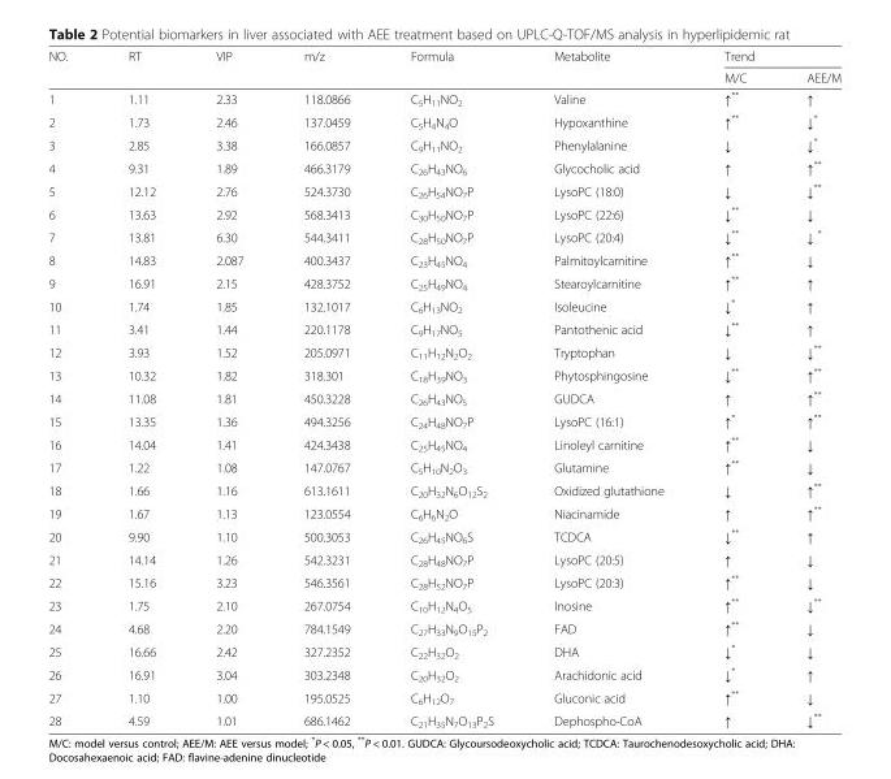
<table><thead><tr><td rowspan="2">NO.</td><td rowspan="2">RT</td><td rowspan="2">VIP</td><td rowspan="2">m/z</td><td rowspan="2">Formula</td><td rowspan="2">Metabolite</td><td colspan="2">Trend</td></tr><tr><td>M/C</td><td>AEE/M</td></tr></thead><tbody><tr><td>1</td><td>1.11</td><td>2.33</td><td>118.0866</td><td>C<sub>5</sub>H<sub>11</sub>NO<sub>2</sub></td><td>Valine</td><td>↑**</td><td>↑</td></tr><tr><td>2</td><td>1.73</td><td>2.46</td><td>137.0459</td><td>C<sub>5</sub>H<sub>4</sub>N<sub>4</sub>O</td><td>Hypoxanthine</td><td>↑**</td><td>↓*</td></tr><tr><td>3</td><td>2.85</td><td>3.38</td><td>166.0857</td><td>C<sub>9</sub>H<sub>11</sub>NO<sub>2</sub></td><td>Phenylalanine</td><td>↓</td><td>↓*</td></tr><tr><td>4</td><td>9.31</td><td>1.89</td><td>466.3179</td><td>C<sub>26</sub>H<sub>43</sub>NO<sub>6</sub></td><td>Glycocholic acid</td><td>↑</td><td>↑**</td></tr><tr><td>5</td><td>12.12</td><td>2.76</td><td>524.3730</td><td>C<sub>26</sub>H<sub>54</sub>NO<sub>7</sub>P</td><td>LysoPC (18:0)</td><td>↓</td><td>↓**</td></tr><tr><td>6</td><td>13.63</td><td>2.92</td><td>568.3413</td><td>C<sub>30</sub>H<sub>50</sub>NO<sub>7</sub>P</td><td>LysoPC (22:6)</td><td>↓**</td><td>↓</td></tr><tr><td>7</td><td>13.81</td><td>6.30</td><td>544.3411</td><td>C<sub>28</sub>H<sub>50</sub>NO<sub>7</sub>P</td><td>LysoPC (20:4)</td><td>↓**</td><td>↓ *</td></tr><tr><td>8</td><td>14.83</td><td>2.087</td><td>400.3437</td><td>C<sub>23</sub>H<sub>45</sub>NO<sub>4</sub></td><td>Palmitoylcarnitine</td><td>↑**</td><td>↓</td></tr><tr><td>9</td><td>16.91</td><td>2.15</td><td>428.3752</td><td>C<sub>25</sub>H<sub>49</sub>NO<sub>4</sub></td><td>Stearoylcarnitine</td><td>↑**</td><td>↑</td></tr><tr><td>10</td><td>1.74</td><td>1.85</td><td>132.1017</td><td>C<sub>6</sub>H<sub>13</sub>NO<sub>2</sub></td><td>Isoleucine</td><td>↓*</td><td>↑</td></tr><tr><td>11</td><td>3.41</td><td>1.44</td><td>220.1178</td><td>C<sub>9</sub>H<sub>17</sub>NO<sub>5</sub></td><td>Pantothenic acid</td><td>↓**</td><td>↑</td></tr><tr><td>12</td><td>3.93</td><td>1.52</td><td>205.0971</td><td>C<sub>11</sub>H<sub>12</sub>N<sub>2</sub>O<sub>2</sub></td><td>Tryptophan</td><td>↓</td><td>↓**</td></tr><tr><td>13</td><td>10.32</td><td>1.82</td><td>318.301</td><td>C<sub>18</sub>H<sub>39</sub>NO<sub>3</sub></td><td>Phytosphingosine</td><td>↓**</td><td>↑**</td></tr><tr><td>14</td><td>11.08</td><td>1.81</td><td>450.3228</td><td>C<sub>26</sub>H<sub>43</sub>NO<sub>5</sub></td><td>GUDCA</td><td>↑</td><td>↑**</td></tr><tr><td>15</td><td>13.35</td><td>1.36</td><td>494.3256</td><td>C<sub>24</sub>H<sub>48</sub>NO<sub>7</sub>P</td><td>LysoPC (16:1)</td><td>↑*</td><td>↑**</td></tr><tr><td>16</td><td>14.04</td><td>1.41</td><td>424.3438</td><td>C<sub>25</sub>H<sub>45</sub>NO<sub>4</sub></td><td>Linoleyl carnitine</td><td>↑**</td><td>↓</td></tr><tr><td>17</td><td>1.22</td><td>1.08</td><td>147.0767</td><td>C<sub>5</sub>H<sub>10</sub>N<sub>2</sub>O<sub>3</sub></td><td>Glutamine</td><td>↑**</td><td>↓</td></tr><tr><td>18</td><td>1.66</td><td>1.16</td><td>613.1611</td><td>C<sub>20</sub>H<sub>32</sub>N<sub>6</sub>O<sub>12</sub>S<sub>2</sub></td><td>Oxidized glutathione</td><td>↓</td><td>↑**</td></tr><tr><td>19</td><td>1.67</td><td>1.13</td><td>123.0554</td><td>C<sub>6</sub>H<sub>6</sub>N<sub>2</sub>O</td><td>Niacinamide</td><td>↑</td><td>↑**</td></tr><tr><td>20</td><td>9.90</td><td>1.10</td><td>500.3053</td><td>C<sub>26</sub>H<sub>45</sub>NO<sub>6</sub>S</td><td>TCDCA</td><td>↓**</td><td>↑</td></tr><tr><td>21</td><td>14.14</td><td>1.26</td><td>542.3231</td><td>C<sub>28</sub>H<sub>48</sub>NO<sub>7</sub>P</td><td>LysoPC (20:5)</td><td>↑</td><td>↓</td></tr><tr><td>22</td><td>15.16</td><td>3.23</td><td>546.3561</td><td>C<sub>28</sub>H<sub>52</sub>NO<sub>7</sub>P</td><td>LysoPC (20:3)</td><td>↑**</td><td>↓</td></tr><tr><td>23</td><td>1.75</td><td>2.10</td><td>267.0754</td><td>C<sub>10</sub>H<sub>12</sub>N<sub>4</sub>O<sub>5</sub></td><td>Inosine</td><td>↑**</td><td>↓**</td></tr><tr><td>24</td><td>4.68</td><td>2.20</td><td>784.1549</td><td>C<sub>27</sub>H<sub>33</sub>N<sub>9</sub>O<sub>15</sub>P<sub>2</sub></td><td>FAD</td><td>↑**</td><td>↓</td></tr><tr><td>25</td><td>16.66</td><td>2.42</td><td>327.2352</td><td>C<sub>22</sub>H<sub>32</sub>O<sub>2</sub></td><td>DHA</td><td>↓*</td><td>↓</td></tr><tr><td>26</td><td>16.91</td><td>3.04</td><td>303.2348</td><td>C<sub>20</sub>H<sub>32</sub>O<sub>2</sub></td><td>Arachidonic acid</td><td>↓*</td><td>↑</td></tr><tr><td>27</td><td>1.10</td><td>1.00</td><td>195.0525</td><td>C<sub>6</sub>H<sub>12</sub>O<sub>7</sub></td><td>Gluconic acid</td><td>↑**</td><td>↓</td></tr><tr><td>28</td><td>4.59</td><td>1.01</td><td>686.1462</td><td>C<sub>21</sub>H<sub>35</sub>N<sub>7</sub>O<sub>13</sub>P<sub>2</sub>S</td><td>Dephospho-CoA</td><td>↑</td><td>↓**</td></tr></tbody></table>